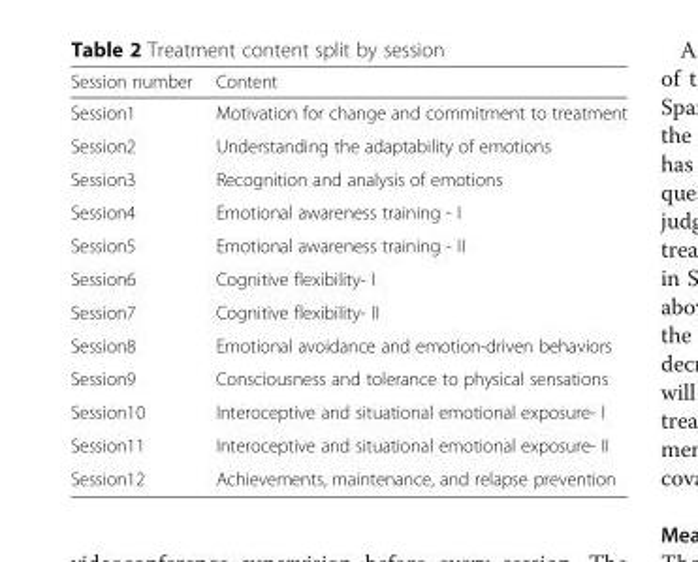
<table><thead><tr><td>Session number</td><td>Content</td></tr></thead><tbody><tr><td>Session1</td><td>Motivation for change and commitment to treatment</td></tr><tr><td>Session2</td><td>Understanding the adaptability of emotions</td></tr><tr><td>Session3</td><td>Recognition and analysis of emotions</td></tr><tr><td>Session4</td><td>Emotional awareness training - I</td></tr><tr><td>Session5</td><td>Emotional awareness training - II</td></tr><tr><td>Session6</td><td>Cognitive flexibility- I</td></tr><tr><td>Session7</td><td>Cognitive flexibility- II</td></tr><tr><td>Session8</td><td>Emotional avoidance and emotion-driven behaviors</td></tr><tr><td>Session9</td><td>Consciousness and tolerance to physical sensations</td></tr><tr><td>Session10</td><td>Interoceptive and situational emotional exposure- I</td></tr><tr><td>Session11</td><td>Interoceptive and situational emotional exposure- II</td></tr><tr><td>Session12</td><td>Achievements, maintenance, and relapse prevention</td></tr></tbody></table>